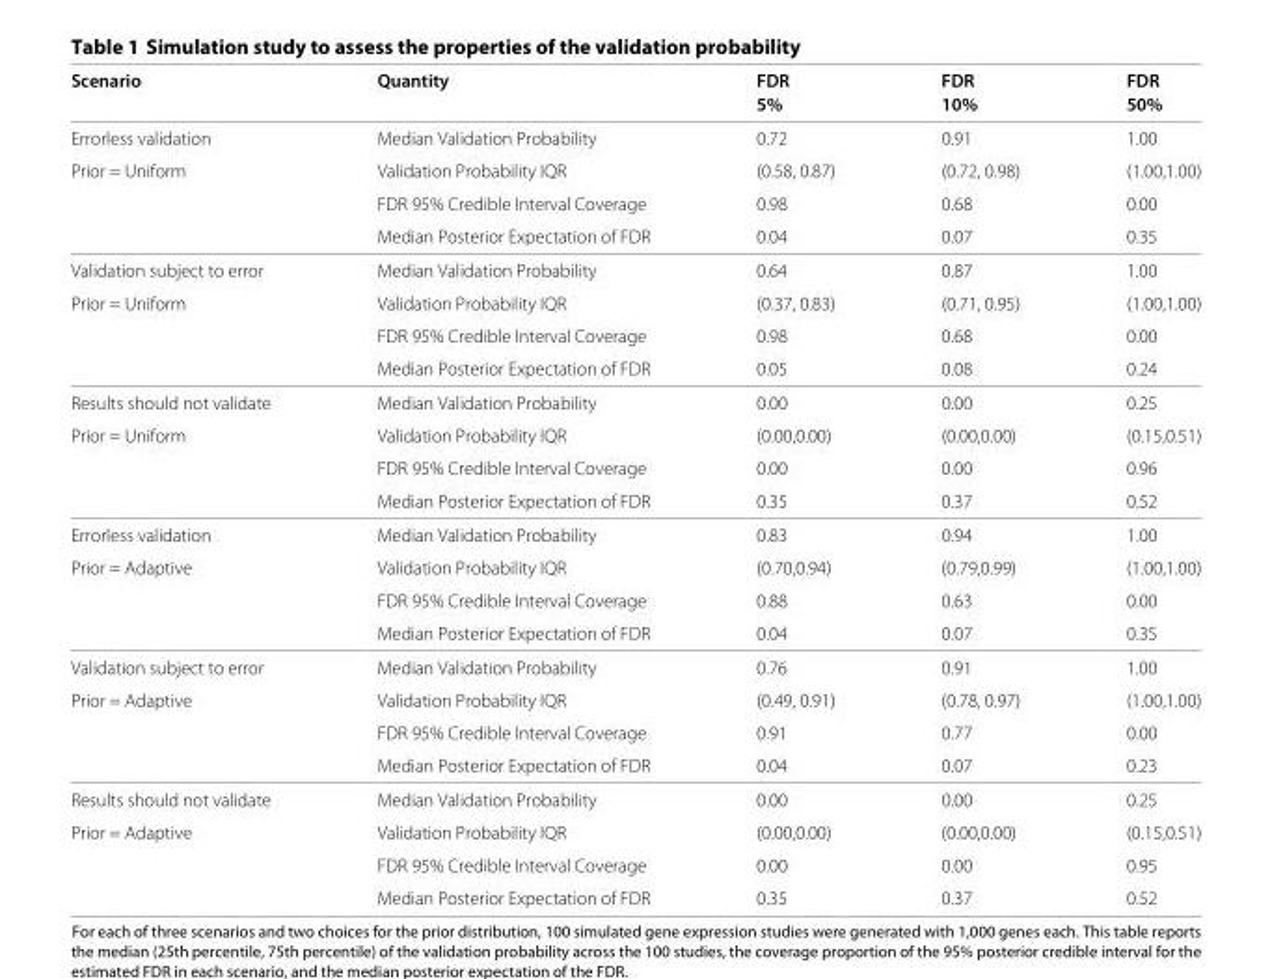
<table><thead><tr><td rowspan="2">Scenario</td><td rowspan="2">Quantity</td><td rowspan="2">FDR 5%</td><td rowspan="2">FDR 10%</td><td rowspan="2">FDR 50%</td></tr><tr></tr></thead><tbody><tr><td>Errorless validation</td><td>Median Validation Probability</td><td>0.72</td><td>0.91</td><td>1.00</td></tr><tr><td rowspan="3">Prior = Uniform</td><td>Validation Probability IQR</td><td>(0.58, 0.87)</td><td>(0.72, 0.98)</td><td>(1.00,1.00)</td></tr><tr><td>FDR 95% Credible Interval Coverage</td><td>0.98</td><td>0.68</td><td>0.00</td></tr><tr><td>Median Posterior Expectation of FDR</td><td>0.04</td><td>0.07</td><td>0.35</td></tr><tr><td>Validation subject to error</td><td>Median Validation Probability</td><td>0.64</td><td>0.87</td><td>1.00</td></tr><tr><td rowspan="3">Prior = Uniform</td><td>Validation Probability IQR</td><td>(0.37, 0.83)</td><td>(0.71, 0.95)</td><td>(1.00,1.00)</td></tr><tr><td>FDR 95% Credible Interval Coverage</td><td>0.98</td><td>0.68</td><td>0.00</td></tr><tr><td>Median Posterior Expectation of FDR</td><td>0.05</td><td>0.08</td><td>0.24</td></tr><tr><td>Results should not validate</td><td>Median Validation Probability</td><td>0.00</td><td>0.00</td><td>0.25</td></tr><tr><td rowspan="3">Prior = Uniform</td><td>Validation Probability IQR</td><td>(0.00,0.00)</td><td>(0.00,0.00)</td><td>(0.15,0.51)</td></tr><tr><td>FDR 95% Credible Interval Coverage</td><td>0.00</td><td>0.00</td><td>0.96</td></tr><tr><td>Median Posterior Expectation of FDR</td><td>0.35</td><td>0.37</td><td>0.52</td></tr><tr><td>Errorless validation</td><td>Median Validation Probability</td><td>0.83</td><td>0.94</td><td>1.00</td></tr><tr><td rowspan="3">Prior = Adaptive</td><td>Validation Probability IQR</td><td>(0.70,0.94)</td><td>(0.79,0.99)</td><td>(1.00,1.00)</td></tr><tr><td>FDR 95% Credible Interval Coverage</td><td>0.88</td><td>0.63</td><td>0.00</td></tr><tr><td>Median Posterior Expectation of FDR</td><td>0.04</td><td>0.07</td><td>0.35</td></tr><tr><td>Validation subject to error</td><td>Median Validation Probability</td><td>0.76</td><td>0.91</td><td>1.00</td></tr><tr><td rowspan="3">Prior = Adaptive</td><td>Validation Probability IQR</td><td>(0.49, 0.91)</td><td>(0.78, 0.97)</td><td>(1.00,1.00)</td></tr><tr><td>FDR 95% Credible Interval Coverage</td><td>0.91</td><td>0.77</td><td>0.00</td></tr><tr><td>Median Posterior Expectation of FDR</td><td>0.04</td><td>0.07</td><td>0.23</td></tr><tr><td>Results should not validate</td><td>Median Validation Probability</td><td>0.00</td><td>0.00</td><td>0.25</td></tr><tr><td rowspan="3">Prior = Adaptive</td><td>Validation Probability IQR</td><td>(0.00,0.00)</td><td>(0.00,0.00)</td><td>(0.15,0.51)</td></tr><tr><td>FDR 95% Credible Interval Coverage</td><td>0.00</td><td>0.00</td><td>0.95</td></tr><tr><td>Median Posterior Expectation of FDR</td><td>0.35</td><td>0.37</td><td>0.52</td></tr></tbody></table>